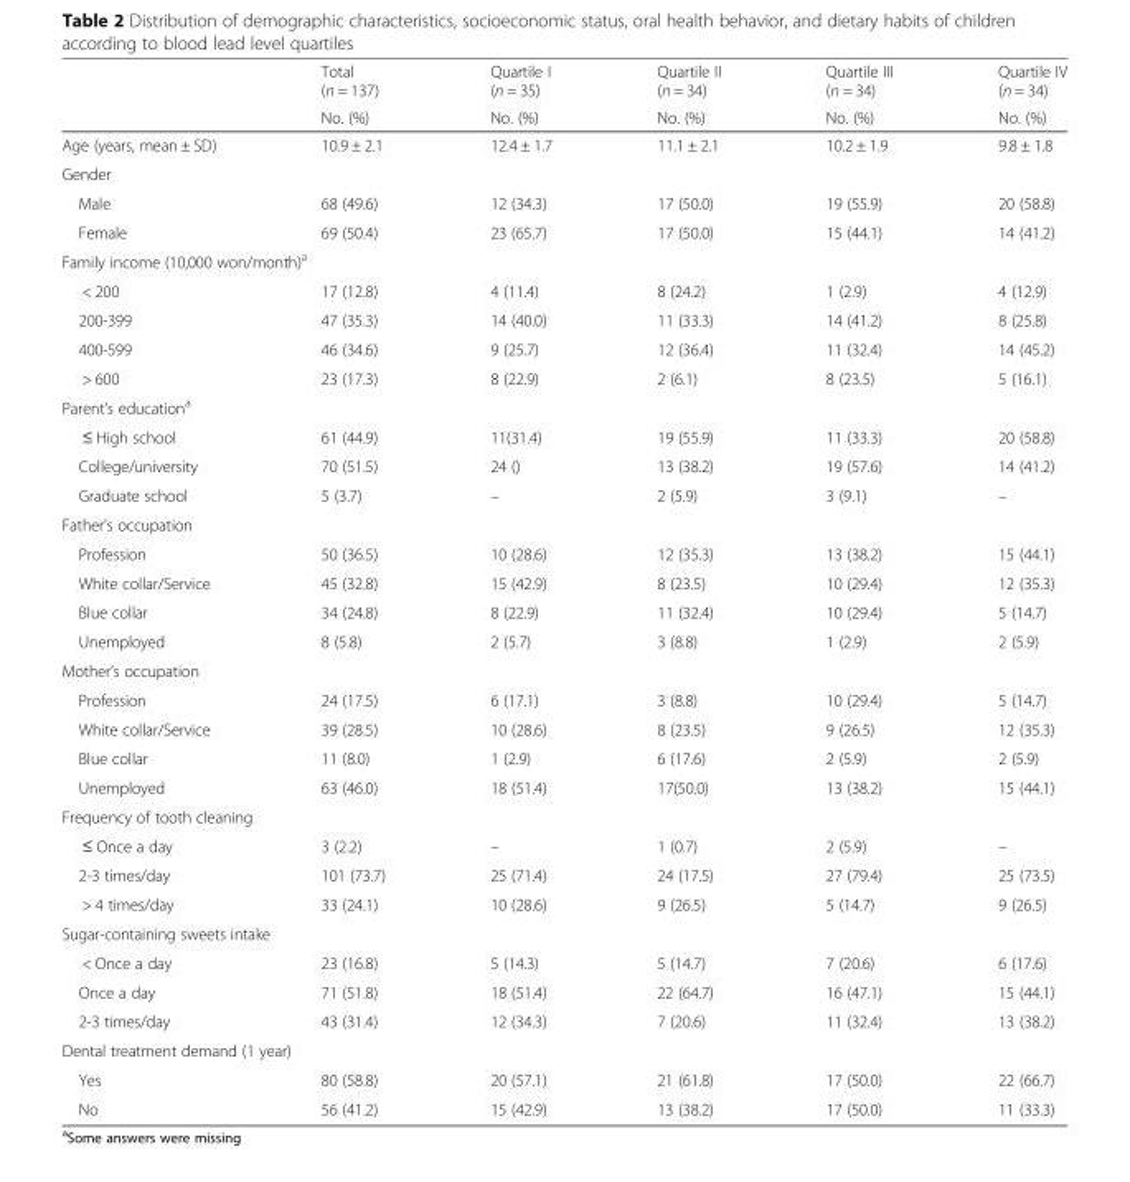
<table><thead><tr><td rowspan="2"></td><td rowspan="2">Total (n = 137) No. (%)</td><td rowspan="2">Quartile I (n = 35) No. (%)</td><td rowspan="2">Quartile II (n = 34) No. (%)</td><td rowspan="2">Quartile III (n = 34) No. (%)</td><td rowspan="2">Quartile IV (n = 34) No. (%)</td></tr><tr></tr></thead><tbody><tr><td>Age (years, mean ± SD)</td><td>10.9 ± 2.1</td><td>12.4 ± 1.7</td><td>11.1 ± 2.1</td><td>10.2 ± 1.9</td><td>9.8 ± 1.8</td></tr><tr><td colspan="6">Gender</td></tr><tr><td>Male</td><td>68 (49.6)</td><td>12 (34.3)</td><td>17 (50.0)</td><td>19 (55.9)</td><td>20 (58.8)</td></tr><tr><td>Female</td><td>69 (50.4)</td><td>23 (65.7)</td><td>17 (50.0)</td><td>15 (44.1)</td><td>14 (41.2)</td></tr><tr><td colspan="6">Family income (10,000 won/month)<sup>a</sup></td></tr><tr><td>&lt; 200</td><td>17 (12.8)</td><td>4 (11.4)</td><td>8 (24.2)</td><td>1 (2.9)</td><td>4 (12.9)</td></tr><tr><td>200-399</td><td>47 (35.3)</td><td>14 (40.0)</td><td>11 (33.3)</td><td>14 (41.2)</td><td>8 (25.8)</td></tr><tr><td>400-599</td><td>46 (34.6)</td><td>9 (25.7)</td><td>12 (36.4)</td><td>11 (32.4)</td><td>14 (45.2)</td></tr><tr><td>&gt; 600</td><td>23 (17.3)</td><td>8 (22.9)</td><td>2 (6.1)</td><td>8 (23.5)</td><td>5 (16.1)</td></tr><tr><td colspan="6">Parent’s education<sup>a</sup></td></tr><tr><td>≤ High school</td><td>61 (44.9)</td><td>11(31.4)</td><td>19 (55.9)</td><td>11 (33.3)</td><td>20 (58.8)</td></tr><tr><td>College/university</td><td>70 (51.5)</td><td>24 ()</td><td>13 (38.2)</td><td>19 (57.6)</td><td>14 (41.2)</td></tr><tr><td>Graduate school</td><td>5 (3.7)</td><td>–</td><td>2 (5.9)</td><td>3 (9.1)</td><td>–</td></tr><tr><td colspan="6">Father’s occupation</td></tr><tr><td>Profession</td><td>50 (36.5)</td><td>10 (28.6)</td><td>12 (35.3)</td><td>13 (38.2)</td><td>15 (44.1)</td></tr><tr><td>White collar/Service</td><td>45 (32.8)</td><td>15 (42.9)</td><td>8 (23.5)</td><td>10 (29.4)</td><td>12 (35.3)</td></tr><tr><td>Blue collar</td><td>34 (24.8)</td><td>8 (22.9)</td><td>11 (32.4)</td><td>10 (29.4)</td><td>5 (14.7)</td></tr><tr><td>Unemployed</td><td>8 (5.8)</td><td>2 (5.7)</td><td>3 (8.8)</td><td>1 (2.9)</td><td>2 (5.9)</td></tr><tr><td colspan="6">Mother’s occupation</td></tr><tr><td>Profession</td><td>24 (17.5)</td><td>6 (17.1)</td><td>3 (8.8)</td><td>10 (29.4)</td><td>5 (14.7)</td></tr><tr><td>White collar/Service</td><td>39 (28.5)</td><td>10 (28.6)</td><td>8 (23.5)</td><td>9 (26.5)</td><td>12 (35.3)</td></tr><tr><td>Blue collar</td><td>11 (8.0)</td><td>1 (2.9)</td><td>6 (17.6)</td><td>2 (5.9)</td><td>2 (5.9)</td></tr><tr><td>Unemployed</td><td>63 (46.0)</td><td>18 (51.4)</td><td>17(50.0)</td><td>13 (38.2)</td><td>15 (44.1)</td></tr><tr><td colspan="6">Frequency of tooth cleaning</td></tr><tr><td>≤ Once a day</td><td>3 (2.2)</td><td>–</td><td>1 (0.7)</td><td>2 (5.9)</td><td>–</td></tr><tr><td>2-3 times/day</td><td>101 (73.7)</td><td>25 (71.4)</td><td>24 (17.5)</td><td>27 (79.4)</td><td>25 (73.5)</td></tr><tr><td>&gt; 4 times/day</td><td>33 (24.1)</td><td>10 (28.6)</td><td>9 (26.5)</td><td>5 (14.7)</td><td>9 (26.5)</td></tr><tr><td colspan="6">Sugar-containing sweets intake</td></tr><tr><td>&lt; Once a day</td><td>23 (16.8)</td><td>5 (14.3)</td><td>5 (14.7)</td><td>7 (20.6)</td><td>6 (17.6)</td></tr><tr><td>Once a day</td><td>71 (51.8)</td><td>18 (51.4)</td><td>22 (64.7)</td><td>16 (47.1)</td><td>15 (44.1)</td></tr><tr><td>2-3 times/day</td><td>43 (31.4)</td><td>12 (34.3)</td><td>7 (20.6)</td><td>11 (32.4)</td><td>13 (38.2)</td></tr><tr><td colspan="6">Dental treatment demand (1 year)</td></tr><tr><td>Yes</td><td>80 (58.8)</td><td>20 (57.1)</td><td>21 (61.8)</td><td>17 (50.0)</td><td>22 (66.7)</td></tr><tr><td>No</td><td>56 (41.2)</td><td>15 (42.9)</td><td>13 (38.2)</td><td>17 (50.0)</td><td>11 (33.3)</td></tr></tbody></table>